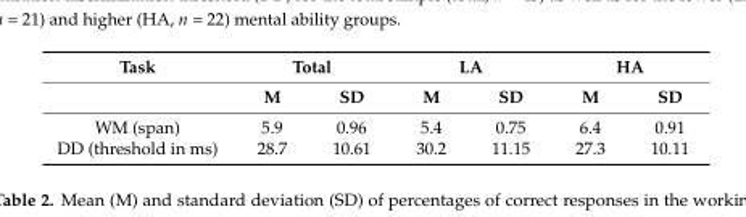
<table><thead><tr><td rowspan="2">Task</td><td colspan="2">Total</td><td colspan="2">LA</td><td colspan="2">HA</td></tr><tr><td>M</td><td>SD</td><td>M</td><td>SD</td><td>M</td><td>SD</td></tr></thead><tbody><tr><td>WM (span)</td><td>5.9</td><td>0.96</td><td>5.4</td><td>0.75</td><td>6.4</td><td>0.91</td></tr><tr><td>DD (threshold in ms)</td><td>28.7</td><td>10.61</td><td>30.2</td><td>11.15</td><td>27.3</td><td>10.11</td></tr></tbody></table>